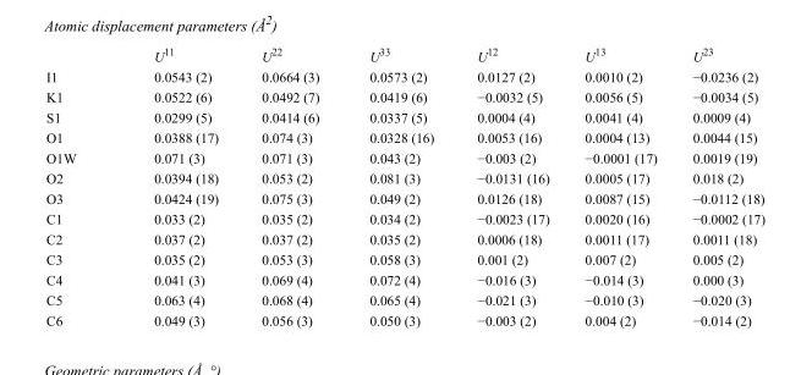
<table><thead><tr><td></td><td>U<sup>11</sup></td><td>U<sup>22</sup></td><td>U<sup>33</sup></td><td>U<sup>12</sup></td><td>U<sup>13</sup></td><td>U<sup>23</sup></td></tr></thead><tbody><tr><td>I1</td><td>0.0543 (2)</td><td>0.0664 (3)</td><td>0.0573 (2)</td><td>0.0127 (2)</td><td>0.0010 (2)</td><td>−0.0236 (2)</td></tr><tr><td>K1</td><td>0.0522 (6)</td><td>0.0492 (7)</td><td>0.0419 (6)</td><td>−0.0032 (5)</td><td>0.0056 (5)</td><td>−0.0034 (5)</td></tr><tr><td>S1</td><td>0.0299 (5)</td><td>0.0414 (6)</td><td>0.0337 (5)</td><td>0.0004 (4)</td><td>0.0041 (4)</td><td>0.0009 (4)</td></tr><tr><td>O1</td><td>0.0388 (17)</td><td>0.074 (3)</td><td>0.0328 (16)</td><td>0.0053 (16)</td><td>0.0004 (13)</td><td>0.0044 (15)</td></tr><tr><td>O1W</td><td>0.071 (3)</td><td>0.071 (3)</td><td>0.043 (2)</td><td>−0.003 (2)</td><td>−0.0001 (17)</td><td>0.0019 (19)</td></tr><tr><td>O2</td><td>0.0394 (18)</td><td>0.053 (2)</td><td>0.081 (3)</td><td>−0.0131 (16)</td><td>0.0005 (17)</td><td>0.018 (2)</td></tr><tr><td>O3</td><td>0.0424 (19)</td><td>0.075 (3)</td><td>0.049 (2)</td><td>0.0126 (18)</td><td>0.0087 (15)</td><td>−0.0112 (18)</td></tr><tr><td>C1</td><td>0.033 (2)</td><td>0.035 (2)</td><td>0.034 (2)</td><td>−0.0023 (17)</td><td>0.0020 (16)</td><td>−0.0002 (17)</td></tr><tr><td>C2</td><td>0.037 (2)</td><td>0.037 (2)</td><td>0.035 (2)</td><td>0.0006 (18)</td><td>0.0011 (17)</td><td>0.0011 (18)</td></tr><tr><td>C3</td><td>0.035 (2)</td><td>0.053 (3)</td><td>0.058 (3)</td><td>0.001 (2)</td><td>0.007 (2)</td><td>0.005 (2)</td></tr><tr><td>C4</td><td>0.041 (3)</td><td>0.069 (4)</td><td>0.072 (4)</td><td>−0.016 (3)</td><td>−0.014 (3)</td><td>0.000 (3)</td></tr><tr><td>C5</td><td>0.063 (4)</td><td>0.068 (4)</td><td>0.065 (4)</td><td>−0.021 (3)</td><td>−0.010 (3)</td><td>−0.020 (3)</td></tr><tr><td>C6</td><td>0.049 (3)</td><td>0.056 (3)</td><td>0.050 (3)</td><td>−0.003 (2)</td><td>0.004 (2)</td><td>−0.014 (2)</td></tr></tbody></table>